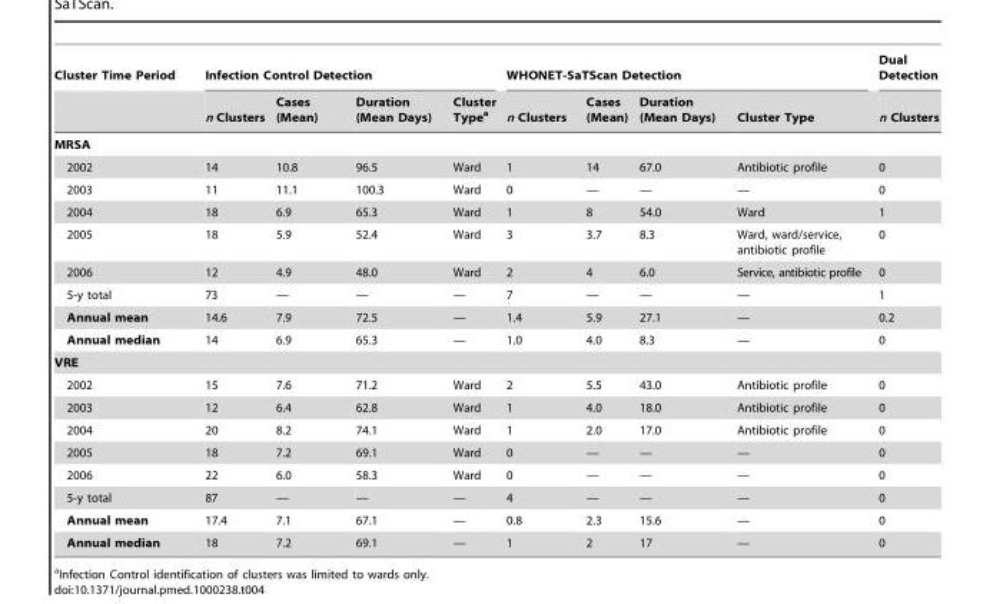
<table><thead><tr><td rowspan="2">Cluster Time Period</td><td colspan="4">Infection Control Detection</td><td colspan="4">WHONET-SaTScan Detection</td><td rowspan="2">Dual Detection n Clusters</td></tr><tr><td>n Clusters</td><td>Cases (Mean)</td><td>Duration (Mean Days)</td><td>Cluster Type<sup>a</sup></td><td>n Clusters</td><td>Cases (Mean)</td><td>Duration (Mean Days)</td><td>Cluster Type</td></tr></thead><tbody><tr><td colspan="10">MRSA</td></tr><tr><td>2002</td><td>14</td><td>10.8</td><td>96.5</td><td>Ward</td><td>1</td><td>14</td><td>67.0</td><td>Antibiotic profile</td><td>0</td></tr><tr><td>2003</td><td>11</td><td>11.1</td><td>100.3</td><td>Ward</td><td>0</td><td>—</td><td>—</td><td>—</td><td>0</td></tr><tr><td>2004</td><td>18</td><td>6.9</td><td>65.3</td><td>Ward</td><td>1</td><td>8</td><td>54.0</td><td>Ward</td><td>1</td></tr><tr><td>2005</td><td>18</td><td>5.9</td><td>52.4</td><td>Ward</td><td>3</td><td>3.7</td><td>8.3</td><td>Ward, ward/service, antibiotic profile</td><td>0</td></tr><tr><td>2006</td><td>12</td><td>4.9</td><td>48.0</td><td>Ward</td><td>2</td><td>4</td><td>6.0</td><td>Service, antibiotic profile</td><td>0</td></tr><tr><td>5-y total</td><td>73</td><td>—</td><td>—</td><td>—</td><td>7</td><td>—</td><td>—</td><td>—</td><td>1</td></tr><tr><td>Annual mean</td><td>14.6</td><td>7.9</td><td>72.5</td><td>—</td><td>1.4</td><td>5.9</td><td>27.1</td><td>—</td><td>0.2</td></tr><tr><td>Annual median</td><td>14</td><td>6.9</td><td>65.3</td><td>—</td><td>1.0</td><td>4.0</td><td>8.3</td><td>—</td><td>0</td></tr><tr><td colspan="10">VRE</td></tr><tr><td>2002</td><td>15</td><td>7.6</td><td>71.2</td><td>Ward</td><td>2</td><td>5.5</td><td>43.0</td><td>Antibiotic profile</td><td>0</td></tr><tr><td>2003</td><td>12</td><td>6.4</td><td>62.8</td><td>Ward</td><td>1</td><td>4.0</td><td>18.0</td><td>Antibiotic profile</td><td>0</td></tr><tr><td>2004</td><td>20</td><td>8.2</td><td>74.1</td><td>Ward</td><td>1</td><td>2.0</td><td>17.0</td><td>Antibiotic profile</td><td>0</td></tr><tr><td>2005</td><td>18</td><td>7.2</td><td>69.1</td><td>Ward</td><td>0</td><td>—</td><td>—</td><td>—</td><td>0</td></tr><tr><td>2006</td><td>22</td><td>6.0</td><td>58.3</td><td>Ward</td><td>0</td><td>—</td><td>—</td><td>—</td><td>0</td></tr><tr><td>5-y total</td><td>87</td><td>—</td><td>—</td><td>—</td><td>4</td><td>—</td><td>—</td><td>—</td><td>0</td></tr><tr><td>Annual mean</td><td>17.4</td><td>7.1</td><td>67.1</td><td>—</td><td>0.8</td><td>2.3</td><td>15.6</td><td>—</td><td>0</td></tr><tr><td>Annual median</td><td>18</td><td>7.2</td><td>69.1</td><td>—</td><td>1</td><td>2</td><td>17</td><td>—</td><td>0</td></tr></tbody></table>